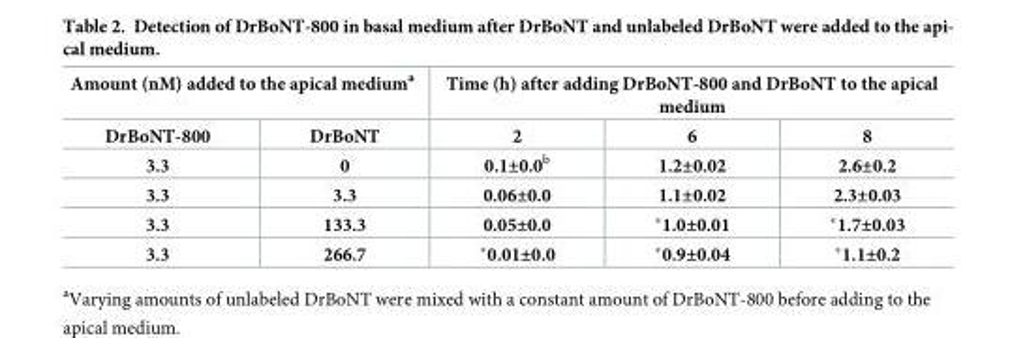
<table><thead><tr><td colspan="2">Amount (nM) added to the apical medium<sup>a</sup></td><td colspan="3">Time (h) after adding DrBoNT-800 and DrBoNT to the apical medium</td></tr><tr><td>DrBoNT-800</td><td>DrBoNT</td><td>2</td><td>6</td><td>8</td></tr></thead><tbody><tr><td>3.3</td><td>0</td><td>0.1±0.0<sup>b</sup></td><td>1.2±0.02</td><td>2.6±0.2</td></tr><tr><td>3.3</td><td>3.3</td><td>0.06±0.0</td><td>1.1±0.02</td><td>2.3±0.03</td></tr><tr><td>3.3</td><td>133.3</td><td>0.05±0.0</td><td>*1.0±0.01</td><td>*1.7±0.03</td></tr><tr><td>3.3</td><td>266.7</td><td>*0.01±0.0</td><td>*0.9±0.04</td><td>*1.1±0.2</td></tr></tbody></table>